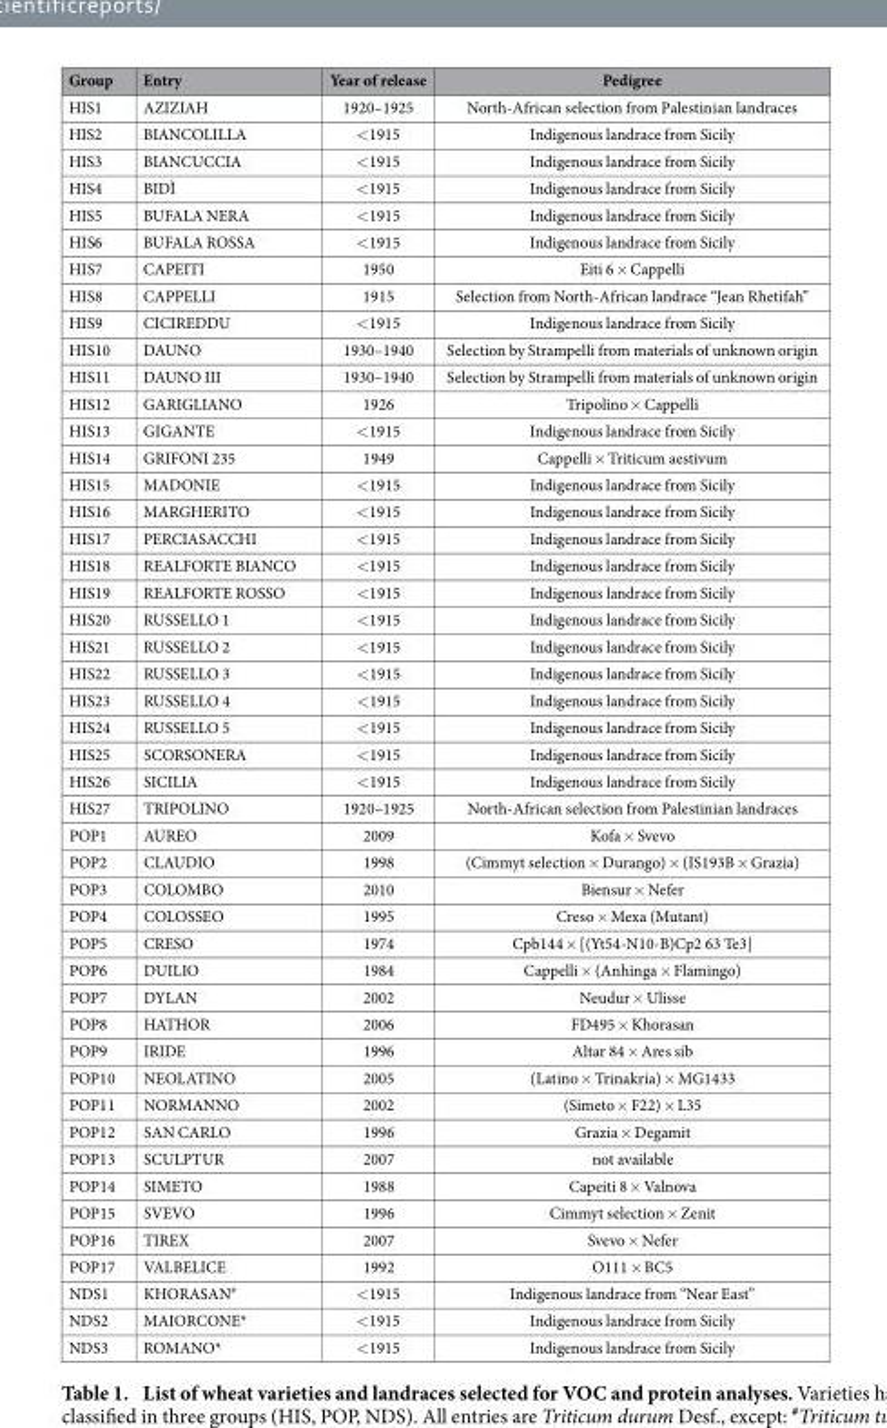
<table><thead><tr><td>Group</td><td>Entry</td><td>Year of release</td><td>Pedigree</td></tr></thead><tbody><tr><td>HIS1</td><td>AZIZIAH</td><td>1920–1925</td><td>North-African selection from Palestinian landraces</td></tr><tr><td>HIS2</td><td>BIANCOLILLA</td><td>&lt; 1915</td><td>Indigenous landrace from Sicily</td></tr><tr><td>HIS3</td><td>BIANCUCCIA</td><td>&lt; 1915</td><td>Indigenous landrace from Sicily</td></tr><tr><td>HIS4</td><td>BIDÌ</td><td>&lt; 1915</td><td>Indigenous landrace from Sicily</td></tr><tr><td>HIS5</td><td>BUFALA NERA</td><td>&lt; 1915</td><td>Indigenous landrace from Sicily</td></tr><tr><td>HIS6</td><td>BUFALA ROSSA</td><td>&lt; 1915</td><td>Indigenous landrace from Sicily</td></tr><tr><td>HIS7</td><td>CAPEITI</td><td>1950</td><td>Eiti 6 × Cappelli</td></tr><tr><td>HIS8</td><td>CAPPELLI</td><td>1915</td><td>Selection from North-African landrace “Jean Rhetifah”</td></tr><tr><td>HIS9</td><td>CICIREDDU</td><td>&lt; 1915</td><td>Indigenous landrace from Sicily</td></tr><tr><td>HIS10</td><td>DAUNO</td><td>1930–1940</td><td>Selection by Strampelli from materials of unknown origin</td></tr><tr><td>HIS11</td><td>DAUNO III</td><td>1930–1940</td><td>Selection by Strampelli from materials of unknown origin</td></tr><tr><td>HIS12</td><td>GARIGLIANO</td><td>1926</td><td>Tripolino × Cappelli</td></tr><tr><td>HIS13</td><td>GIGANTE</td><td>&lt; 1915</td><td>Indigenous landrace from Sicily</td></tr><tr><td>HIS14</td><td>GRIFONI 235</td><td>1949</td><td>Cappelli × Triticum aestivum</td></tr><tr><td>HIS15</td><td>MADONIE</td><td>&lt; 1915</td><td>Indigenous landrace from Sicily</td></tr><tr><td>HIS16</td><td>MARGHERITO</td><td>&lt; 1915</td><td>Indigenous landrace from Sicily</td></tr><tr><td>HIS17</td><td>PERCIASACCHI</td><td>&lt; 1915</td><td>Indigenous landrace from Sicily</td></tr><tr><td>HIS18</td><td>REALFORTE BIANCO</td><td>&lt; 1915</td><td>Indigenous landrace from Sicily</td></tr><tr><td>HIS19</td><td>REALFORTE ROSSO</td><td>&lt; 1915</td><td>Indigenous landrace from Sicily</td></tr><tr><td>HIS20</td><td>RUSSELLO 1</td><td>&lt; 1915</td><td>Indigenous landrace from Sicily</td></tr><tr><td>HIS21</td><td>RUSSELLO 2</td><td>&lt; 1915</td><td>Indigenous landrace from Sicily</td></tr><tr><td>HIS22</td><td>RUSSELLO 3</td><td>&lt; 1915</td><td>Indigenous landrace from Sicily</td></tr><tr><td>HIS23</td><td>RUSSELLO 4</td><td>&lt; 1915</td><td>Indigenous landrace from Sicily</td></tr><tr><td>HIS24</td><td>RUSSELLO 5</td><td>&lt; 1915</td><td>Indigenous landrace from Sicily</td></tr><tr><td>HIS25</td><td>SCORSONERA</td><td>&lt; 1915</td><td>Indigenous landrace from Sicily</td></tr><tr><td>HIS26</td><td>SICILIA</td><td>&lt; 1915</td><td>Indigenous landrace from Sicily</td></tr><tr><td>HIS27</td><td>TRIPOLINO</td><td>1920–1925</td><td>North-African selection from Palestinian landraces</td></tr><tr><td>POP1</td><td>AUREO</td><td>2009</td><td>Kofa × Svevo</td></tr><tr><td>POP2</td><td>CLAUDIO</td><td>1998</td><td>(Cimmyt selection × Durango) × (IS193B × Grazia)</td></tr><tr><td>POP3</td><td>COLOMBO</td><td>2010</td><td>Biensur × Nefer</td></tr><tr><td>POP4</td><td>COLOSSEO</td><td>1995</td><td>Creso × Mexa (Mutant)</td></tr><tr><td>POP5</td><td>CRESO</td><td>1974</td><td>Cpb144 × [(Yt54-N10-B)Cp2 63 Te3]</td></tr><tr><td>POP6</td><td>DUILIO</td><td>1984</td><td>Cappelli × (Anhinga × Flamingo)</td></tr><tr><td>POP7</td><td>DYLAN</td><td>2002</td><td>Neudur × Ulisse</td></tr><tr><td>POP8</td><td>HATHOR</td><td>2006</td><td>FD495 × Khorasan</td></tr><tr><td>POP9</td><td>IRIDE</td><td>1996</td><td>Altar 84 × Ares sib</td></tr><tr><td>POP10</td><td>NEOLATINO</td><td>2005</td><td>(Latino × Trinakria) × MG1433</td></tr><tr><td>POP11</td><td>NORMANNO</td><td>2002</td><td>(Simeto × F22) × L35</td></tr><tr><td>POP12</td><td>SAN CARLO</td><td>1996</td><td>Grazia × Degamit</td></tr><tr><td>POP13</td><td>SCULPTUR</td><td>2007</td><td>not available</td></tr><tr><td>POP14</td><td>SIMETO</td><td>1988</td><td>Capeiti 8 × Valnova</td></tr><tr><td>POP15</td><td>SVEVO</td><td>1996</td><td>Cimmyt selection × Zenit</td></tr><tr><td>POP16</td><td>TIREX</td><td>2007</td><td>Svevo × Nefer</td></tr><tr><td>POP17</td><td>VALBELICE</td><td>1992</td><td>O111 × BC5</td></tr><tr><td>NDS1</td><td>KHORASAN<sup>#</sup></td><td>&lt; 1915</td><td>Indigenous landrace from “Near East”</td></tr><tr><td>NDS2</td><td>MAIORCONE*</td><td>&lt; 1915</td><td>Indigenous landrace from Sicily</td></tr><tr><td>NDS3</td><td>ROMANO*</td><td>&lt; 1915</td><td>Indigenous landrace from Sicily</td></tr></tbody></table>